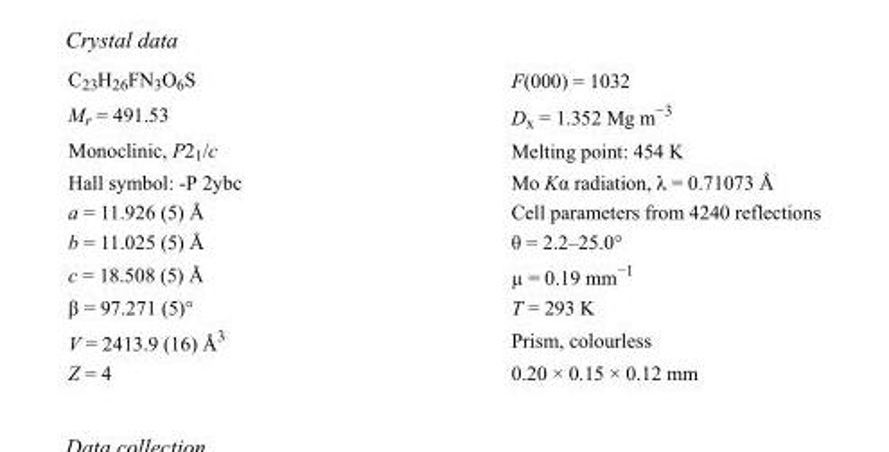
<table><tbody><tr><td>C<sub>23</sub>H<sub>26</sub>FN<sub>3</sub>O<sub>6</sub>S</td><td>F(000) = 1032</td></tr><tr><td>M<sub>r</sub> = 491.53</td><td>D<sub>x</sub> = 1.352 Mg m<sup>−3</sup></td></tr><tr><td>Monoclinic, P2<sub>1</sub>/c</td><td>Melting point: 454 K</td></tr><tr><td>Hall symbol: -P 2ybc</td><td>Mo Kα radiation, λ = 0.71073 Å</td></tr><tr><td>a = 11.926 (5) Å</td><td>Cell parameters from 4240 reflections</td></tr><tr><td>b = 11.025 (5) Å</td><td>θ = 2.2–25.0°</td></tr><tr><td>c = 18.508 (5) Å</td><td>µ = 0.19 mm<sup>−1</sup></td></tr><tr><td>β = 97.271 (5)°</td><td>T = 293 K</td></tr><tr><td>V = 2413.9 (16) Å<sup>3</sup></td><td>Prism, colourless</td></tr><tr><td>Z = 4</td><td>0.20 × 0.15 × 0.12 mm</td></tr></tbody></table>